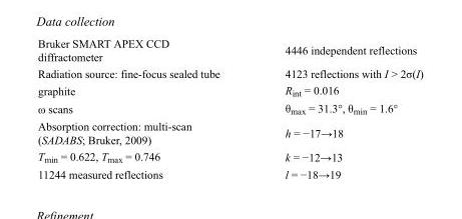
<table><tbody><tr><td>Bruker SMART APEX CCD diffractometer</td><td>4446 independent reflections</td></tr><tr><td>Radiation source: fine-focus sealed tube</td><td>4123 reflections with I &gt; 2σ(I)</td></tr><tr><td>graphite</td><td>R<sub>int</sub> = 0.016</td></tr><tr><td>ω scans</td><td>θ<sub>max</sub> = 31.3°, θ<sub>min</sub> = 1.6°</td></tr><tr><td>Absorption correction: multi-scan (SADABS; Bruker, 2009)</td><td>h = −17→18</td></tr><tr><td>T<sub>min</sub> = 0.622, T<sub>max</sub> = 0.746</td><td>k = −12→13</td></tr><tr><td>11244 measured reflections</td><td>l = −18→19</td></tr></tbody></table>